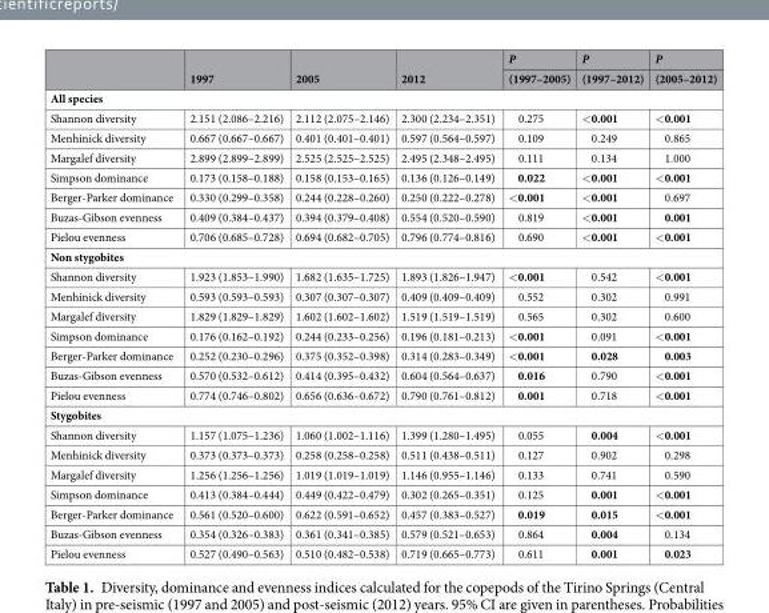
<table><thead><tr><td rowspan="2"></td><td rowspan="2">1997</td><td rowspan="2">2005</td><td rowspan="2">2012</td><td rowspan="2">P (1997–2005)</td><td rowspan="2">P (1997–2012)</td><td rowspan="2">P (2005–2012)</td></tr><tr></tr></thead><tbody><tr><td colspan="7">All species</td></tr><tr><td>Shannon diversity</td><td>2.151 (2.086–2.216)</td><td>2.112 (2.075–2.146)</td><td>2.300 (2.234–2.351)</td><td>0.275</td><td>&lt;0.001</td><td>&lt;0.001</td></tr><tr><td>Menhinick diversity</td><td>0.667 (0.667–0.667)</td><td>0.401 (0.401–0.401)</td><td>0.597 (0.564–0.597)</td><td>0.109</td><td>0.249</td><td>0.865</td></tr><tr><td>Margalef diversity</td><td>2.899 (2.899–2.899)</td><td>2.525 (2.525–2.525)</td><td>2.495 (2.348–2.495)</td><td>0.111</td><td>0.134</td><td>1.000</td></tr><tr><td>Simpson dominance</td><td>0.173 (0.158–0.188)</td><td>0.158 (0.153–0.165)</td><td>0.136 (0.126–0.149)</td><td>0.022</td><td>&lt;0.001</td><td>&lt;0.001</td></tr><tr><td>Berger-Parker dominance</td><td>0.330 (0.299–0.358)</td><td>0.244 (0.228–0.260)</td><td>0.250 (0.222–0.278)</td><td>&lt;0.001</td><td>&lt;0.001</td><td>0.697</td></tr><tr><td>Buzas-Gibson evenness</td><td>0.409 (0.384–0.437)</td><td>0.394 (0.379–0.408)</td><td>0.554 (0.520–0.590)</td><td>0.819</td><td>&lt;0.001</td><td>0.001</td></tr><tr><td>Pielou evenness</td><td>0.706 (0.685–0.728)</td><td>0.694 (0.682–0.705)</td><td>0.796 (0.774–0.816)</td><td>0.690</td><td>&lt;0.001</td><td>&lt;0.001</td></tr><tr><td colspan="7">Non stygobites</td></tr><tr><td>Shannon diversity</td><td>1.923 (1.853–1.990)</td><td>1.682 (1.635–1.725)</td><td>1.893 (1.826–1.947)</td><td>&lt;0.001</td><td>0.542</td><td>&lt;0.001</td></tr><tr><td>Menhinick diversity</td><td>0.593 (0.593–0.593)</td><td>0.307 (0.307–0.307)</td><td>0.409 (0.409–0.409)</td><td>0.552</td><td>0.302</td><td>0.991</td></tr><tr><td>Margalef diversity</td><td>1.829 (1.829–1.829)</td><td>1.602 (1.602–1.602)</td><td>1.519 (1.519–1.519)</td><td>0.565</td><td>0.302</td><td>0.600</td></tr><tr><td>Simpson dominance</td><td>0.176 (0.162–0.192)</td><td>0.244 (0.233–0.256)</td><td>0.196 (0.181–0.213)</td><td>&lt;0.001</td><td>0.091</td><td>&lt;0.001</td></tr><tr><td>Berger-Parker dominance</td><td>0.252 (0.230–0.296)</td><td>0.375 (0.352–0.398)</td><td>0.314 (0.283–0.349)</td><td>&lt;0.001</td><td>0.028</td><td>0.003</td></tr><tr><td>Buzas-Gibson evenness</td><td>0.570 (0.532–0.612)</td><td>0.414 (0.395–0.432)</td><td>0.604 (0.564–0.637)</td><td>0.016</td><td>0.790</td><td>&lt;0.001</td></tr><tr><td>Pielou evenness</td><td>0.774 (0.746–0.802)</td><td>0.656 (0.636–0.672)</td><td>0.790 (0.761–0.812)</td><td>0.001</td><td>0.718</td><td>&lt;0.001</td></tr><tr><td colspan="7">Stygobites</td></tr><tr><td>Shannon diversity</td><td>1.157 (1.075–1.236)</td><td>1.060 (1.002–1.116)</td><td>1.399 (1.280–1.495)</td><td>0.055</td><td>0.004</td><td>&lt;0.001</td></tr><tr><td>Menhinick diversity</td><td>0.373 (0.373–0.373)</td><td>0.258 (0.258–0.258)</td><td>0.511 (0.438–0.511)</td><td>0.127</td><td>0.902</td><td>0.298</td></tr><tr><td>Margalef diversity</td><td>1.256 (1.256–1.256)</td><td>1.019 (1.019–1.019)</td><td>1.146 (0.955–1.146)</td><td>0.133</td><td>0.741</td><td>0.590</td></tr><tr><td>Simpson dominance</td><td>0.413 (0.384–0.444)</td><td>0.449 (0.422–0.479)</td><td>0.302 (0.265–0.351)</td><td>0.125</td><td>0.001</td><td>&lt;0.001</td></tr><tr><td>Berger-Parker dominance</td><td>0.561 (0.520–0.600)</td><td>0.622 (0.591–0.652)</td><td>0.457 (0.383–0.527)</td><td>0.019</td><td>0.015</td><td>&lt;0.001</td></tr><tr><td>Buzas-Gibson evenness</td><td>0.354 (0.326–0.383)</td><td>0.361 (0.341–0.385)</td><td>0.579 (0.521–0.653)</td><td>0.864</td><td>0.004</td><td>0.134</td></tr><tr><td>Pielou evenness</td><td>0.527 (0.490–0.563)</td><td>0.510 (0.482–0.538)</td><td>0.719 (0.665–0.773)</td><td>0.611</td><td>0.001</td><td>0.023</td></tr></tbody></table>